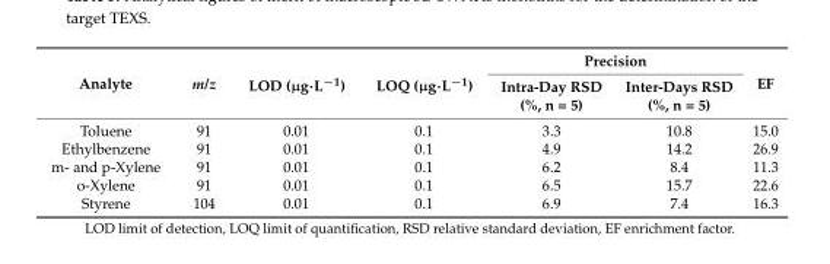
<table><thead><tr><td rowspan="2">Analyte</td><td rowspan="2">m/z</td><td rowspan="2">LOD (µg·L−1)</td><td rowspan="2">LOQ (µg·L−1)</td><td colspan="2">Precision</td><td rowspan="2">EF</td></tr><tr><td>Intra-Day RSD (%, n = 5)</td><td>Inter-Days RSD (%, n = 5)</td></tr></thead><tbody><tr><td>Toluene</td><td>91</td><td>0.01</td><td>0.1</td><td>3.3</td><td>10.8</td><td>15.0</td></tr><tr><td>Ethylbenzene</td><td>91</td><td>0.01</td><td>0.1</td><td>4.9</td><td>14.2</td><td>26.9</td></tr><tr><td>m- and p-Xylene</td><td>91</td><td>0.01</td><td>0.1</td><td>6.2</td><td>8.4</td><td>11.3</td></tr><tr><td>o-Xylene</td><td>91</td><td>0.01</td><td>0.1</td><td>6.5</td><td>15.7</td><td>22.6</td></tr><tr><td>Styrene</td><td>104</td><td>0.01</td><td>0.1</td><td>6.9</td><td>7.4</td><td>16.3</td></tr></tbody></table>